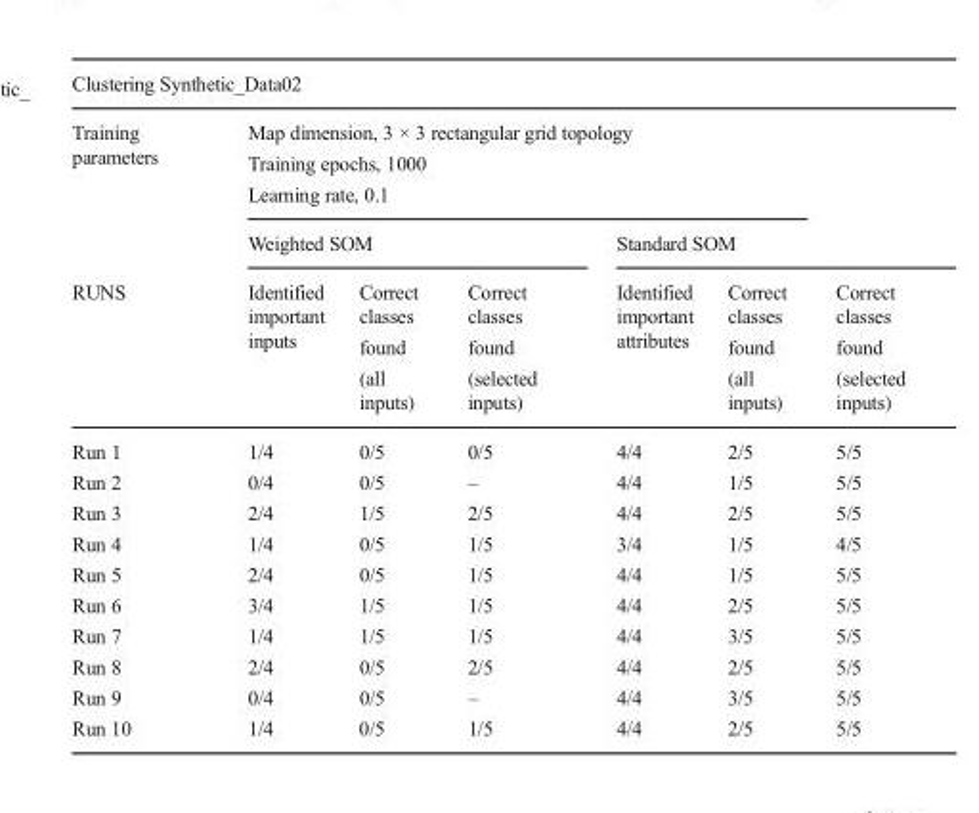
<table><thead><tr><td colspan="7">Clustering Synthetic_Data02</td></tr><tr><td rowspan="3">Training parameters RUNS</td><td colspan="5">Map dimension, 3 × 3 rectangular grid topology Training epochs, 1000 Learning rate, 0.1</td><td></td></tr><tr><td colspan="3">Weighted SOM</td><td colspan="3">Standard SOM</td></tr><tr><td>Identified important inputs</td><td>Correct classes found (all inputs)</td><td>Correct classes found (selected inputs)</td><td>Identified important attributes</td><td>Correct classes found (all inputs)</td><td>Correct classes found (selected inputs)</td></tr></thead><tbody><tr><td>Run 1</td><td>1/4</td><td>0/5</td><td>0/5</td><td>4/4</td><td>2/5</td><td>5/5</td></tr><tr><td>Run 2</td><td>0/4</td><td>0/5</td><td>–</td><td>4/4</td><td>1/5</td><td>5/5</td></tr><tr><td>Run 3</td><td>2/4</td><td>1/5</td><td>2/5</td><td>4/4</td><td>2/5</td><td>5/5</td></tr><tr><td>Run 4</td><td>1/4</td><td>0/5</td><td>1/5</td><td>3/4</td><td>1/5</td><td>4/5</td></tr><tr><td>Run 5</td><td>2/4</td><td>0/5</td><td>1/5</td><td>4/4</td><td>1/5</td><td>5/5</td></tr><tr><td>Run 6</td><td>3/4</td><td>1/5</td><td>1/5</td><td>4/4</td><td>2/5</td><td>5/5</td></tr><tr><td>Run 7</td><td>1/4</td><td>1/5</td><td>1/5</td><td>4/4</td><td>3/5</td><td>5/5</td></tr><tr><td>Run 8</td><td>2/4</td><td>0/5</td><td>2/5</td><td>4/4</td><td>2/5</td><td>5/5</td></tr><tr><td>Run 9</td><td>0/4</td><td>0/5</td><td>–</td><td>4/4</td><td>3/5</td><td>5/5</td></tr><tr><td>Run 10</td><td>1/4</td><td>0/5</td><td>1/5</td><td>4/4</td><td>2/5</td><td>5/5</td></tr></tbody></table>